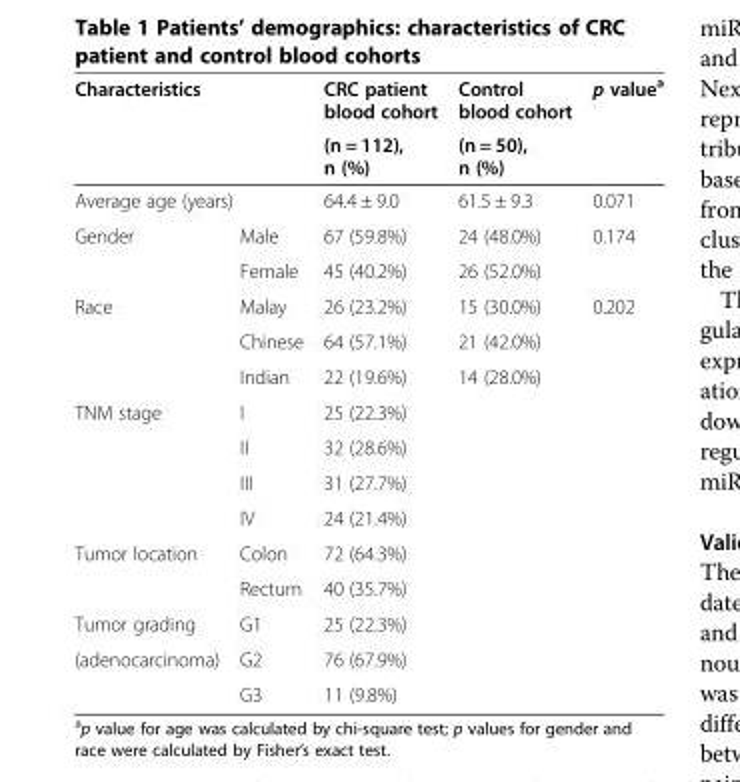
<table><thead><tr><td colspan="2">Characteristics</td><td rowspan="2">CRC patient blood cohort (n = 112), n (%)</td><td rowspan="2">Control blood cohort (n = 50), n (%)</td><td rowspan="2">p value<sup>a</sup></td></tr><tr><td></td><td></td></tr></thead><tbody><tr><td colspan="2">Average age (years)</td><td>64.4 ± 9.0</td><td>61.5 ± 9.3</td><td>0.071</td></tr><tr><td rowspan="2">Gender</td><td>Male</td><td>67 (59.8%)</td><td>24 (48.0%)</td><td>0.174</td></tr><tr><td>Female</td><td>45 (40.2%)</td><td>26 (52.0%)</td><td></td></tr><tr><td rowspan="3">Race</td><td>Malay</td><td>26 (23.2%)</td><td>15 (30.0%)</td><td>0.202</td></tr><tr><td>Chinese</td><td>64 (57.1%)</td><td>21 (42.0%)</td><td></td></tr><tr><td>Indian</td><td>22 (19.6%)</td><td>14 (28.0%)</td><td></td></tr><tr><td rowspan="4">TNM stage</td><td>I</td><td>25 (22.3%)</td><td></td><td></td></tr><tr><td>II</td><td>32 (28.6%)</td><td></td><td></td></tr><tr><td>III</td><td>31 (27.7%)</td><td></td><td></td></tr><tr><td>IV</td><td>24 (21.4%)</td><td></td><td></td></tr><tr><td rowspan="2">Tumor location</td><td>Colon</td><td>72 (64.3%)</td><td></td><td></td></tr><tr><td>Rectum</td><td>40 (35.7%)</td><td></td><td></td></tr><tr><td>Tumor grading</td><td>G1</td><td>25 (22.3%)</td><td></td><td></td></tr><tr><td rowspan="2">(adenocarcinoma)</td><td>G2</td><td>76 (67.9%)</td><td></td><td></td></tr><tr><td>G3</td><td>11 (9.8%)</td><td></td><td></td></tr></tbody></table>